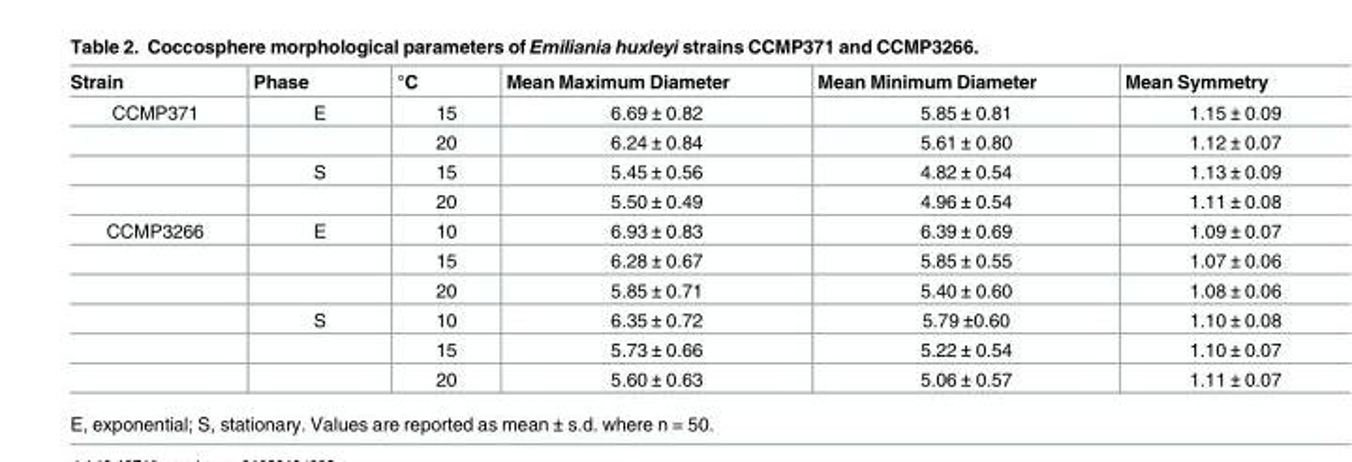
<table><thead><tr><td>Strain</td><td>Phase</td><td>°C</td><td>Mean Maximum Diameter</td><td>Mean Minimum Diameter</td><td>Mean Symmetry</td></tr></thead><tbody><tr><td rowspan="4">CCMP371</td><td>E</td><td>15</td><td>6.69 ± 0.82</td><td>5.85 ± 0.81</td><td>1.15 ± 0.09</td></tr><tr><td></td><td>20</td><td>6.24 ± 0.84</td><td>5.61 ± 0.80</td><td>1.12 ± 0.07</td></tr><tr><td>S</td><td>15</td><td>5.45 ± 0.56</td><td>4.82 ± 0.54</td><td>1.13 ± 0.09</td></tr><tr><td></td><td>20</td><td>5.50 ± 0.49</td><td>4.96 ± 0.54</td><td>1.11 ± 0.08</td></tr><tr><td rowspan="6">CCMP3266</td><td>E</td><td>10</td><td>6.93 ± 0.83</td><td>6.39 ± 0.69</td><td>1.09 ± 0.07</td></tr><tr><td></td><td>15</td><td>6.28 ± 0.67</td><td>5.85 ± 0.55</td><td>1.07 ± 0.06</td></tr><tr><td></td><td>20</td><td>5.85 ± 0.71</td><td>5.40 ± 0.60</td><td>1.08 ± 0.06</td></tr><tr><td>S</td><td>10</td><td>6.35 ± 0.72</td><td>5.79 ±0.60</td><td>1.10 ± 0.08</td></tr><tr><td></td><td>15</td><td>5.73 ± 0.66</td><td>5.22 ± 0.54</td><td>1.10 ± 0.07</td></tr><tr><td></td><td>20</td><td>5.60 ± 0.63</td><td>5.06 ± 0.57</td><td>1.11 ± 0.07</td></tr></tbody></table>